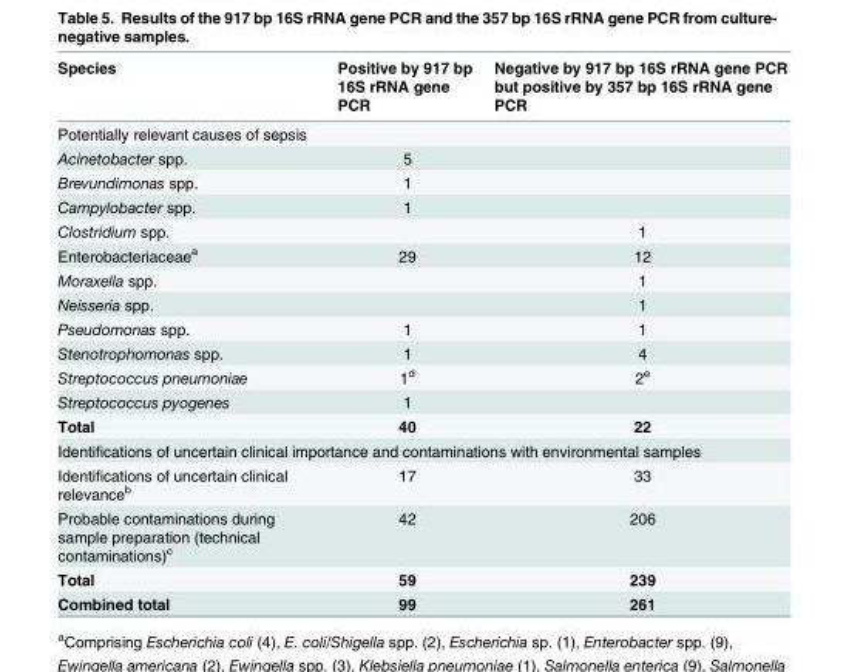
<table><thead><tr><td>Species</td><td>Positive by 917 bp 16S rRNA gene PCR</td><td>Negative by 917 bp 16S rRNA gene PCR but positive by 357 bp 16S rRNA gene PCR</td></tr></thead><tbody><tr><td colspan="3">Potentially relevant causes of sepsis</td></tr><tr><td>Acinetobacter spp.</td><td>5</td><td></td></tr><tr><td>Brevundimonas spp.</td><td>1</td><td></td></tr><tr><td>Campylobacter spp.</td><td>1</td><td></td></tr><tr><td>Clostridium spp.</td><td></td><td>1</td></tr><tr><td>Enterobacteriaceae<sup>a</sup></td><td>29</td><td>12</td></tr><tr><td>Moraxella spp.</td><td></td><td>1</td></tr><tr><td>Neisseria spp.</td><td></td><td>1</td></tr><tr><td>Pseudomonas spp.</td><td>1</td><td>1</td></tr><tr><td>Stenotrophomonas spp.</td><td>1</td><td>4</td></tr><tr><td>Streptococcus pneumoniae</td><td>1<sup>d</sup></td><td>2<sup>e</sup></td></tr><tr><td>Streptococcus pyogenes</td><td>1</td><td></td></tr><tr><td>Total</td><td>40</td><td>22</td></tr><tr><td colspan="3">Identifications of uncertain clinical importance and contaminations with environmental samples</td></tr><tr><td>Identifications of uncertain clinical relevance<sup>b</sup></td><td>17</td><td>33</td></tr><tr><td>Probable contaminations during sample preparation (technical contaminations)<sup>c</sup></td><td>42</td><td>206</td></tr><tr><td>Total</td><td>59</td><td>239</td></tr><tr><td>Combined total</td><td>99</td><td>261</td></tr></tbody></table>